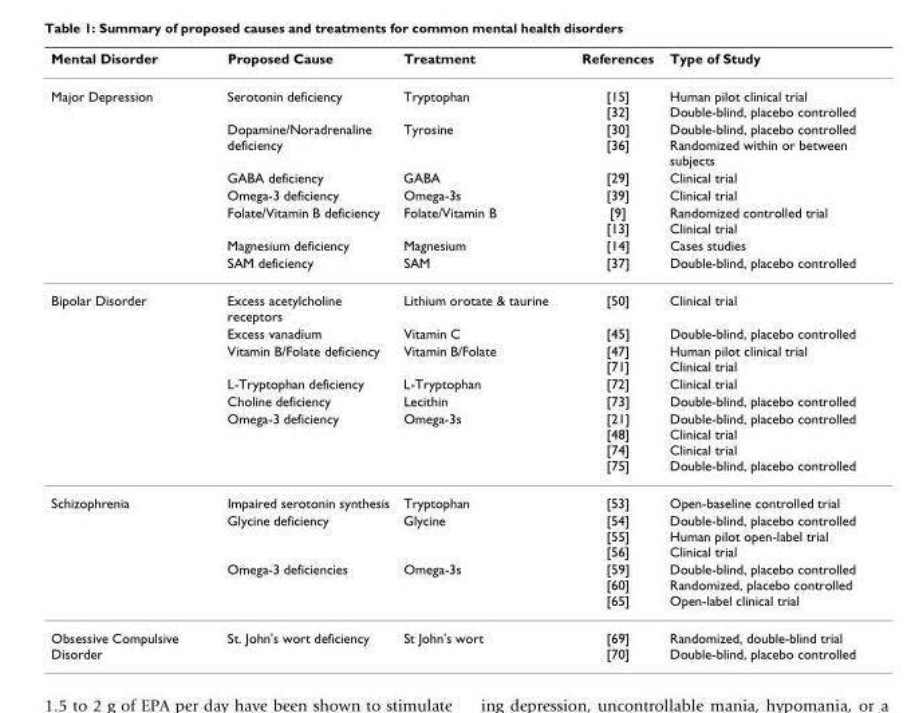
<table><thead><tr><td>Mental Disorder</td><td>Proposed Cause</td><td>Treatment</td><td>References</td><td>Type of Study</td></tr></thead><tbody><tr><td rowspan="7">Major Depression</td><td>Serotonin deficiency</td><td>Tryptophan</td><td>[15] [32]</td><td>Human pilot clinical trial Double-blind, placebo controlled</td></tr><tr><td>Dopamine/Noradrenaline deficiency</td><td>Tyrosine</td><td>[30] [36]</td><td>Double-blind, placebo controlled Randomized within or between subjects</td></tr><tr><td>GABA deficiency</td><td>GABA</td><td>[29]</td><td>Clinical trial</td></tr><tr><td>Omega-3 deficiency</td><td>Omega-3s</td><td>[39]</td><td>Clinical trial</td></tr><tr><td>Folate/Vitamin B deficiency</td><td>Folate/Vitamin B</td><td>[9] [13]</td><td>Randomized controlled trial Clinical trial</td></tr><tr><td>Magnesium deficiency</td><td>Magnesium</td><td>[14]</td><td>Cases studies</td></tr><tr><td>SAM deficiency</td><td>SAM</td><td>[37]</td><td>Double-blind, placebo controlled</td></tr><tr><td rowspan="6">Bipolar Disorder</td><td>Excess acetylcholine receptors</td><td>Lithium orotate &amp; taurine</td><td>[50]</td><td>Clinical trial</td></tr><tr><td>Excess vanadium</td><td>Vitamin C</td><td>[45]</td><td>Double-blind, placebo controlled</td></tr><tr><td>Vitamin B/Folate deficiency</td><td>Vitamin B/Folate</td><td>[47] [71]</td><td>Human pilot clinical trial Clinical trial</td></tr><tr><td>L-Tryptophan deficiency</td><td>L-Tryptophan</td><td>[72]</td><td>Clinical trial</td></tr><tr><td>Choline deficiency</td><td>Lecithin</td><td>[73]</td><td>Double-blind, placebo controlled</td></tr><tr><td>Omega-3 deficiency</td><td>Omega-3s</td><td>[21] [48] [74] [75]</td><td>Double-blind, placebo controlled Clinical trial Clinical trial Double-blind, placebo controlled</td></tr><tr><td rowspan="3">Schizophrenia</td><td>Impaired serotonin synthesis</td><td>Tryptophan</td><td>[53]</td><td>Open-baseline controlled trial</td></tr><tr><td>Glycine deficiency</td><td>Glycine</td><td>[54] [55] [56]</td><td>Double-blind, placebo controlled Human pilot open-label trial Clinical trial</td></tr><tr><td>Omega-3 deficiencies</td><td>Omega-3s</td><td>[59] [60] [65]</td><td>Double-blind, placebo controlled Randomized, placebo controlled Open-label clinical trial</td></tr><tr><td>Obsessive Compulsive Disorder</td><td>St. John&#x27;s wort deficiency</td><td>St John&#x27;s wort</td><td>[69] [70]</td><td>Randomized, double-blind trial Double-blind, placebo controlled</td></tr></tbody></table>